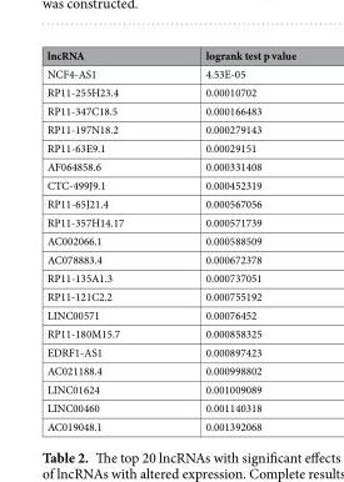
<table><thead><tr><td>lncRNA</td><td>logrank test p value</td></tr></thead><tbody><tr><td>NCF4-AS1</td><td>4.53E-05</td></tr><tr><td>RP11-255H23.4</td><td>0.00010702</td></tr><tr><td>RP11-347C18.5</td><td>0.000166483</td></tr><tr><td>RP11-197N18.2</td><td>0.000279143</td></tr><tr><td>RP11-63E9.1</td><td>0.00029151</td></tr><tr><td>AF064858.6</td><td>0.000331408</td></tr><tr><td>CTC-499J9.1</td><td>0.000452319</td></tr><tr><td>RP11-65J21.4</td><td>0.000567056</td></tr><tr><td>RP11-357H14.17</td><td>0.000571739</td></tr><tr><td>AC002066.1</td><td>0.000588509</td></tr><tr><td>AC078883.4</td><td>0.000672378</td></tr><tr><td>RP11-135A1.3</td><td>0.000737051</td></tr><tr><td>RP11-121C2.2</td><td>0.000755192</td></tr><tr><td>LINC00571</td><td>0.00076452</td></tr><tr><td>RP11-180M15.7</td><td>0.000858325</td></tr><tr><td>EDRF1-AS1</td><td>0.000897423</td></tr><tr><td>AC021188.4</td><td>0.000998802</td></tr><tr><td>LINC01624</td><td>0.001009089</td></tr><tr><td>LINC00460</td><td>0.001140318</td></tr><tr><td>AC019048.1</td><td>0.001392068</td></tr></tbody></table>